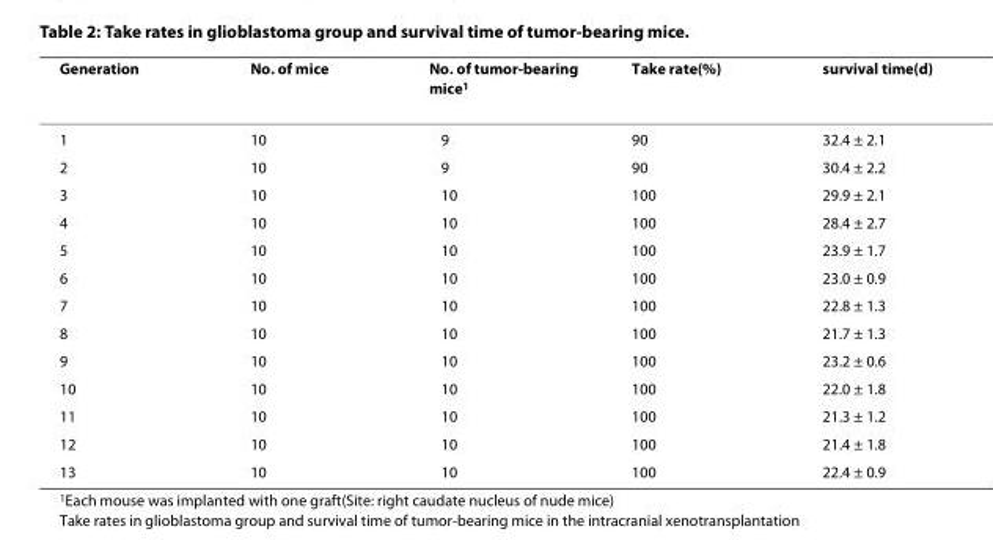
<table><thead><tr><td>Generation</td><td>No. of mice</td><td>No. of tumor-bearing mice<sup>1</sup></td><td>Take rate(%)</td><td>survival time(d)</td></tr></thead><tbody><tr><td>1</td><td>10</td><td>9</td><td>90</td><td>32.4 ± 2.1</td></tr><tr><td>2</td><td>10</td><td>9</td><td>90</td><td>30.4 ± 2.2</td></tr><tr><td>3</td><td>10</td><td>10</td><td>100</td><td>29.9 ± 2.1</td></tr><tr><td>4</td><td>10</td><td>10</td><td>100</td><td>28.4 ± 2.7</td></tr><tr><td>5</td><td>10</td><td>10</td><td>100</td><td>23.9 ± 1.7</td></tr><tr><td>6</td><td>10</td><td>10</td><td>100</td><td>23.0 ± 0.9</td></tr><tr><td>7</td><td>10</td><td>10</td><td>100</td><td>22.8 ± 1.3</td></tr><tr><td>8</td><td>10</td><td>10</td><td>100</td><td>21.7 ± 1.3</td></tr><tr><td>9</td><td>10</td><td>10</td><td>100</td><td>23.2 ± 0.6</td></tr><tr><td>10</td><td>10</td><td>10</td><td>100</td><td>22.0 ± 1.8</td></tr><tr><td>11</td><td>10</td><td>10</td><td>100</td><td>21.3 ± 1.2</td></tr><tr><td>12</td><td>10</td><td>10</td><td>100</td><td>21.4 ± 1.8</td></tr><tr><td>13</td><td>10</td><td>10</td><td>100</td><td>22.4 ± 0.9</td></tr></tbody></table>